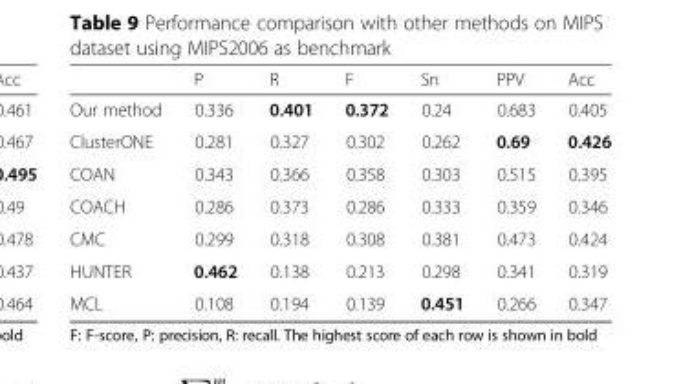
<table><thead><tr><td></td><td>P</td><td>R</td><td>F</td><td>Sn</td><td>PPV</td><td>Acc</td></tr></thead><tbody><tr><td>Our method</td><td>0.336</td><td>0.401</td><td>0.372</td><td>0.24</td><td>0.683</td><td>0.405</td></tr><tr><td>ClusterONE</td><td>0.281</td><td>0.327</td><td>0.302</td><td>0.262</td><td>0.69</td><td>0.426</td></tr><tr><td>COAN</td><td>0.343</td><td>0.366</td><td>0.358</td><td>0.303</td><td>0.515</td><td>0.395</td></tr><tr><td>COACH</td><td>0.286</td><td>0.373</td><td>0.286</td><td>0.333</td><td>0.359</td><td>0.346</td></tr><tr><td>CMC</td><td>0.299</td><td>0.318</td><td>0.308</td><td>0.381</td><td>0.473</td><td>0.424</td></tr><tr><td>HUNTER</td><td>0.462</td><td>0.138</td><td>0.213</td><td>0.298</td><td>0.341</td><td>0.319</td></tr><tr><td>MCL</td><td>0.108</td><td>0.194</td><td>0.139</td><td>0.451</td><td>0.266</td><td>0.347</td></tr></tbody></table>